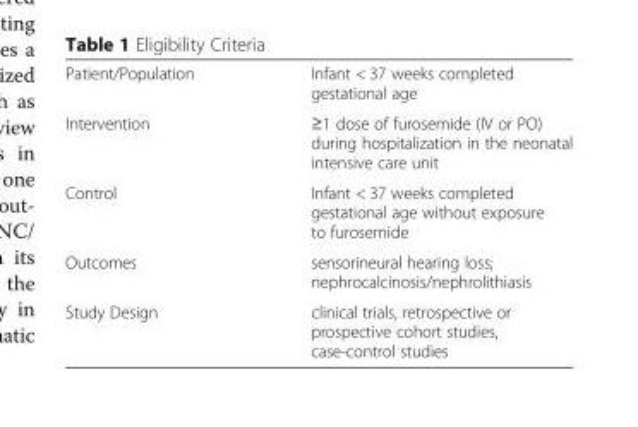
<table><tbody><tr><td>Patient/Population</td><td>Infant &lt; 37 weeks completed gestational age</td></tr><tr><td>Intervention</td><td>≥1 dose of furosemide (IV or PO) during hospitalization in the neonatal intensive care unit</td></tr><tr><td>Control</td><td>Infant &lt; 37 weeks completed gestational age without exposure to furosemide</td></tr><tr><td>Outcomes</td><td>sensorineural hearing loss; nephrocalcinosis/nephrolithiasis</td></tr><tr><td>Study Design</td><td>clinical trials, retrospective or prospective cohort studies, case-control studies</td></tr></tbody></table>